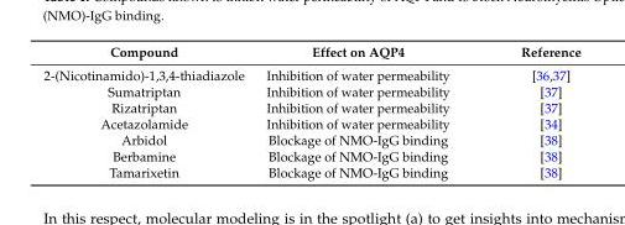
<table><thead><tr><td>Compound</td><td>Effect on AQP4</td><td>Reference</td></tr></thead><tbody><tr><td>2-(Nicotinamido)-1,3,4-thiadiazole</td><td>Inhibition of water permeability</td><td>[36,37]</td></tr><tr><td>Sumatriptan</td><td>Inhibition of water permeability</td><td>[37]</td></tr><tr><td>Rizatriptan</td><td>Inhibition of water permeability</td><td>[37]</td></tr><tr><td>Acetazolamide</td><td>Inhibition of water permeability</td><td>[34]</td></tr><tr><td>Arbidol</td><td>Blockage of NMO-IgG binding</td><td>[38]</td></tr><tr><td>Berbamine</td><td>Blockage of NMO-IgG binding</td><td>[38]</td></tr><tr><td>Tamarixetin</td><td>Blockage of NMO-IgG binding</td><td>[38]</td></tr></tbody></table>